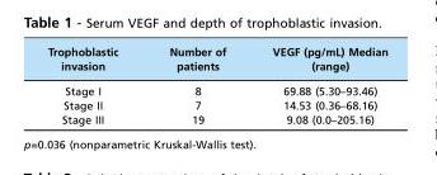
<table><thead><tr><td>Trophoblastic invasion</td><td>Number of patients</td><td>VEGF (pg/mL) Median (range)</td></tr></thead><tbody><tr><td>Stage I</td><td>8</td><td>69.88 (5.30–93.46)</td></tr><tr><td>Stage II</td><td>7</td><td>14.53 (0.36–68.16)</td></tr><tr><td>Stage III</td><td>19</td><td>9.08 (0.0–205.16)</td></tr></tbody></table>